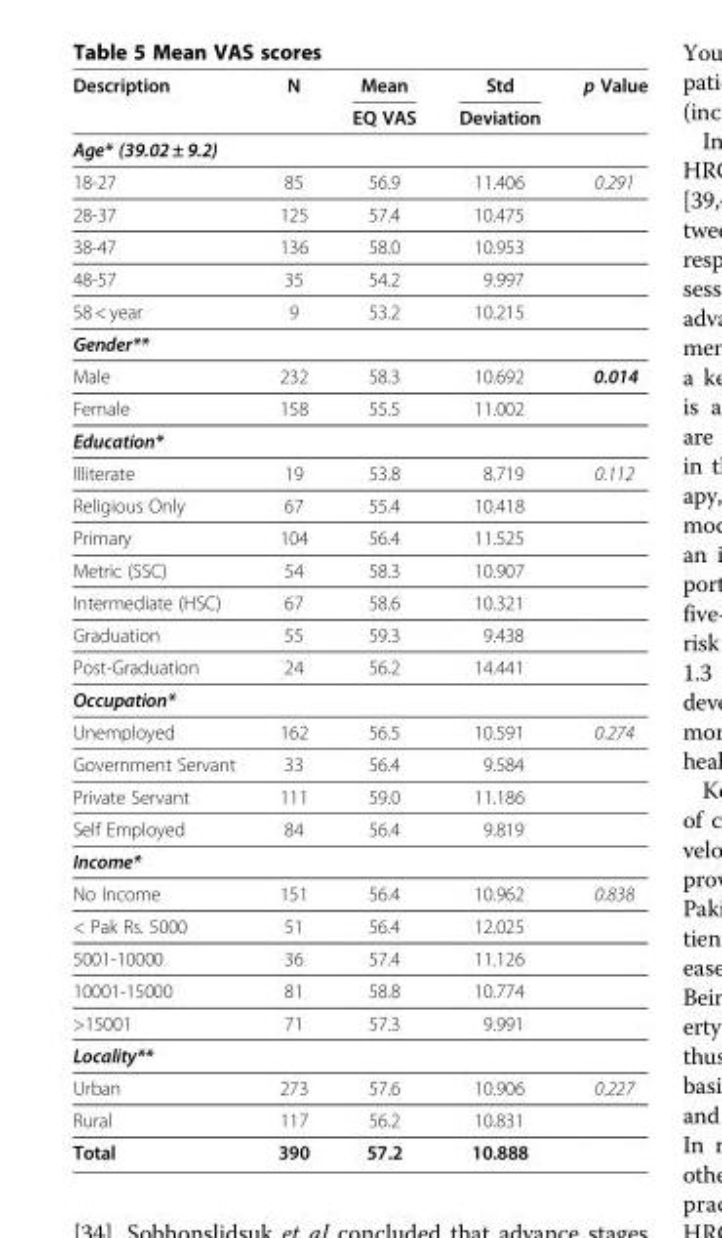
<table><thead><tr><td rowspan="2">Description</td><td rowspan="2">N</td><td rowspan="2">Mean EQ VAS</td><td rowspan="2">Std Deviation</td><td rowspan="2">p Value</td></tr><tr></tr></thead><tbody><tr><td colspan="5">Age* (39.02 ± 9.2)</td></tr><tr><td>18-27</td><td>85</td><td>56.9</td><td>11.406</td><td>0.291</td></tr><tr><td>28-37</td><td>125</td><td>57.4</td><td>10.475</td><td></td></tr><tr><td>38-47</td><td>136</td><td>58.0</td><td>10.953</td><td></td></tr><tr><td>48-57</td><td>35</td><td>54.2</td><td>9.997</td><td></td></tr><tr><td>58 &lt; year</td><td>9</td><td>53.2</td><td>10.215</td><td></td></tr><tr><td colspan="5">Gender**</td></tr><tr><td>Male</td><td>232</td><td>58.3</td><td>10.692</td><td>0.014</td></tr><tr><td>Female</td><td>158</td><td>55.5</td><td>11.002</td><td></td></tr><tr><td colspan="5">Education*</td></tr><tr><td>Illiterate</td><td>19</td><td>53.8</td><td>8.719</td><td>0.112</td></tr><tr><td>Religious Only</td><td>67</td><td>55.4</td><td>10.418</td><td></td></tr><tr><td>Primary</td><td>104</td><td>56.4</td><td>11.525</td><td></td></tr><tr><td>Metric (SSC)</td><td>54</td><td>58.3</td><td>10.907</td><td></td></tr><tr><td>Intermediate (HSC)</td><td>67</td><td>58.6</td><td>10.321</td><td></td></tr><tr><td>Graduation</td><td>55</td><td>59.3</td><td>9.438</td><td></td></tr><tr><td>Post-Graduation</td><td>24</td><td>56.2</td><td>14.441</td><td></td></tr><tr><td colspan="5">Occupation*</td></tr><tr><td>Unemployed</td><td>162</td><td>56.5</td><td>10.591</td><td>0.274</td></tr><tr><td>Government Servant</td><td>33</td><td>56.4</td><td>9.584</td><td></td></tr><tr><td>Private Servant</td><td>111</td><td>59.0</td><td>11.186</td><td></td></tr><tr><td>Self Employed</td><td>84</td><td>56.4</td><td>9.819</td><td></td></tr><tr><td colspan="5">Income*</td></tr><tr><td>No Income</td><td>151</td><td>56.4</td><td>10.962</td><td>0.838</td></tr><tr><td>&lt; Pak Rs. 5000</td><td>51</td><td>56.4</td><td>12.025</td><td></td></tr><tr><td>5001-10000</td><td>36</td><td>57.4</td><td>11.126</td><td></td></tr><tr><td>10001-15000</td><td>81</td><td>58.8</td><td>10.774</td><td></td></tr><tr><td>&gt;15001</td><td>71</td><td>57.3</td><td>9.991</td><td></td></tr><tr><td colspan="5">Locality**</td></tr><tr><td>Urban</td><td>273</td><td>57.6</td><td>10.906</td><td>0.227</td></tr><tr><td>Rural</td><td>117</td><td>56.2</td><td>10.831</td><td></td></tr><tr><td>Total</td><td>390</td><td>57.2</td><td>10.888</td><td></td></tr></tbody></table>